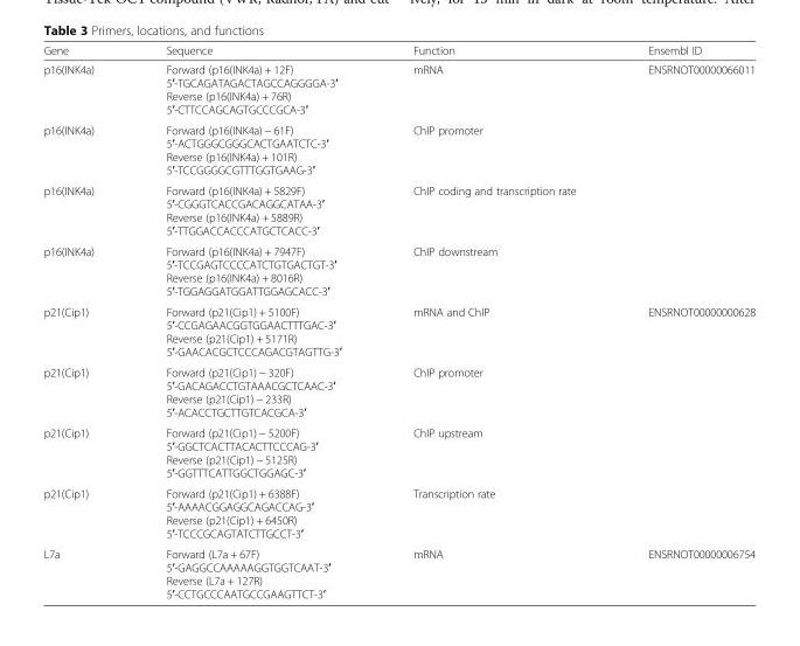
<table><thead><tr><td>Gene</td><td>Sequence</td><td>Function</td><td>Ensembl ID</td></tr></thead><tbody><tr><td>p16(INK4a)</td><td>Forward (p16(INK4a) + 12F) 5′-TGCAGATAGACTAGCCAGGGGA-3′ Reverse (p16(INK4a) + 76R) 5′-CTTCCAGCAGTGCCCGCA-3′</td><td>mRNA</td><td>ENSRNOT00000066011</td></tr><tr><td>p16(INK4a)</td><td>Forward (p16(INK4a) − 61F) 5′-ACTGGGCGGGCACTGAATCTC-3′ Reverse (p16(INK4a) + 101R) 5′-TCCGGGGCGTTTGGTGAAG-3′</td><td>ChIP promoter</td><td></td></tr><tr><td>p16(INK4a)</td><td>Forward (p16(INK4a) + 5829F) 5′-CGGGTCACCGACAGGCATAA-3′ Reverse (p16(INK4a) + 5889R) 5′-TTGGACCACCCATGCTCACC-3′</td><td>ChIP coding and transcription rate</td><td></td></tr><tr><td>p16(INK4a)</td><td>Forward (p16(INK4a) + 7947F) 5′-TCCGAGTCCCCATCTGTGACTGT-3′ Reverse (p16(INK4a) + 8016R) 5′-TGGAGGATGGATTGGAGCACC-3′</td><td>ChIP downstream</td><td></td></tr><tr><td>p21(Cip1)</td><td>Forward (p21(Cip1) + 5100F) 5′-CCGAGAACGGTGGAACTTTGAC-3′ Reverse (p21(Cip1) + 5171R) 5′-GAACACGCTCCCAGACGTAGTTG-3′</td><td>mRNA and ChIP</td><td>ENSRNOT00000000628</td></tr><tr><td>p21(Cip1)</td><td>Forward (p21(Cip1) − 320F) 5′-GACAGACCTGTAAACGCTCAAC-3′ Reverse (p21(Cip1) − 233R) 5′-ACACCTGCTTGTCACGCA-3′</td><td>ChIP promoter</td><td></td></tr><tr><td>p21(Cip1)</td><td>Forward (p21(Cip1) − 5200F) 5′-GGCTCACTTACACTTCCCAG-3′ Reverse (p21(Cip1) − 5125R) 5′-GGTTTCATTGGCTGGAGC-3′</td><td>ChIP upstream</td><td></td></tr><tr><td>p21(Cip1)</td><td>Forward (p21(Cip1) + 6388F) 5′-AAAACGGAGGCAGACCAG-3′ Reverse (p21(Cip1) + 6450R) 5′-TCCCGCAGTATCTTGCCT-3′</td><td>Transcription rate</td><td></td></tr><tr><td>L7a</td><td>Forward (L7a + 67F) 5′-GAGGCCAAAAAGGTGGTCAAT-3′ Reverse (L7a + 127R) 5′-CCTGCCCAATGCCGAAGTTCT-3′</td><td>mRNA</td><td>ENSRNOT00000006754</td></tr></tbody></table>